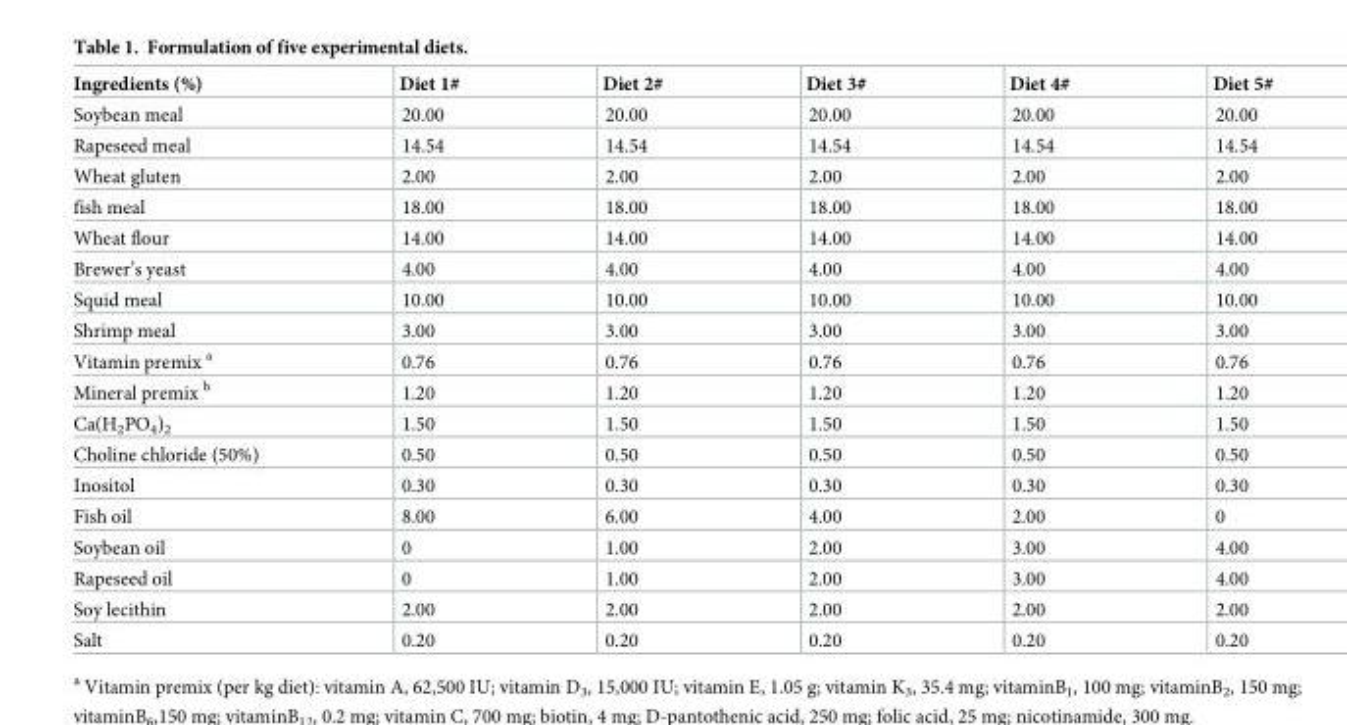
<table><thead><tr><td>Ingredients (%)</td><td>Diet 1#</td><td>Diet 2#</td><td>Diet 3#</td><td>Diet 4#</td><td>Diet 5#</td></tr></thead><tbody><tr><td>Soybean meal</td><td>20.00</td><td>20.00</td><td>20.00</td><td>20.00</td><td>20.00</td></tr><tr><td>Rapeseed meal</td><td>14.54</td><td>14.54</td><td>14.54</td><td>14.54</td><td>14.54</td></tr><tr><td>Wheat gluten</td><td>2.00</td><td>2.00</td><td>2.00</td><td>2.00</td><td>2.00</td></tr><tr><td>fish meal</td><td>18.00</td><td>18.00</td><td>18.00</td><td>18.00</td><td>18.00</td></tr><tr><td>Wheat flour</td><td>14.00</td><td>14.00</td><td>14.00</td><td>14.00</td><td>14.00</td></tr><tr><td>Brewer’s yeast</td><td>4.00</td><td>4.00</td><td>4.00</td><td>4.00</td><td>4.00</td></tr><tr><td>Squid meal</td><td>10.00</td><td>10.00</td><td>10.00</td><td>10.00</td><td>10.00</td></tr><tr><td>Shrimp meal</td><td>3.00</td><td>3.00</td><td>3.00</td><td>3.00</td><td>3.00</td></tr><tr><td>Vitamin premix <sup>a</sup></td><td>0.76</td><td>0.76</td><td>0.76</td><td>0.76</td><td>0.76</td></tr><tr><td>Mineral premix <sup>b</sup></td><td>1.20</td><td>1.20</td><td>1.20</td><td>1.20</td><td>1.20</td></tr><tr><td>Ca(H<sub>2</sub>PO<sub>4</sub>)<sub>2</sub></td><td>1.50</td><td>1.50</td><td>1.50</td><td>1.50</td><td>1.50</td></tr><tr><td>Choline chloride (50%)</td><td>0.50</td><td>0.50</td><td>0.50</td><td>0.50</td><td>0.50</td></tr><tr><td>Inositol</td><td>0.30</td><td>0.30</td><td>0.30</td><td>0.30</td><td>0.30</td></tr><tr><td>Fish oil</td><td>8.00</td><td>6.00</td><td>4.00</td><td>2.00</td><td>0</td></tr><tr><td>Soybean oil</td><td>0</td><td>1.00</td><td>2.00</td><td>3.00</td><td>4.00</td></tr><tr><td>Rapeseed oil</td><td>0</td><td>1.00</td><td>2.00</td><td>3.00</td><td>4.00</td></tr><tr><td>Soy lecithin</td><td>2.00</td><td>2.00</td><td>2.00</td><td>2.00</td><td>2.00</td></tr><tr><td>Salt</td><td>0.20</td><td>0.20</td><td>0.20</td><td>0.20</td><td>0.20</td></tr></tbody></table>